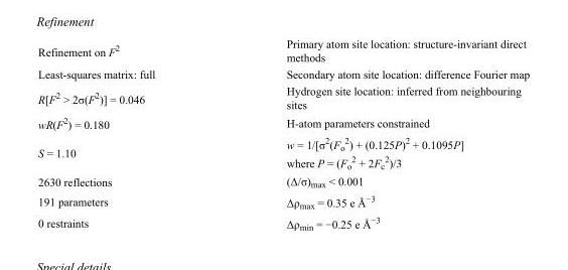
<table><tbody><tr><td>Refinement on F<sup>2</sup></td><td>Primary atom site location: structure-invariant direct methods</td></tr><tr><td>Least-squares matrix: full</td><td>Secondary atom site location: difference Fourier map</td></tr><tr><td>R[F<sup>2</sup> &gt; 2σ(F<sup>2</sup>)] = 0.046</td><td>Hydrogen site location: inferred from neighbouring sites</td></tr><tr><td>wR(F<sup>2</sup>) = 0.180</td><td>H-atom parameters constrained</td></tr><tr><td>S = 1.10</td><td>w = 1/[σ<sup>2</sup>(F<sub>o</sub> <sup>2</sup>) + (0.125P)<sup>2</sup> + 0.1095P] where P = (F<sub>o</sub> <sup>2</sup> + 2F<sub>c</sub> <sup>2</sup>)/3</td></tr><tr><td>2630 reflections</td><td>(Δ/σ)<sub>max</sub> &lt; 0.001</td></tr><tr><td>191 parameters</td><td>Δρ<sub>max</sub> = 0.35 e Å<sup>−3</sup></td></tr><tr><td>0 restraints</td><td>Δρ<sub>min</sub> = −0.25 e Å<sup>−3</sup></td></tr></tbody></table>